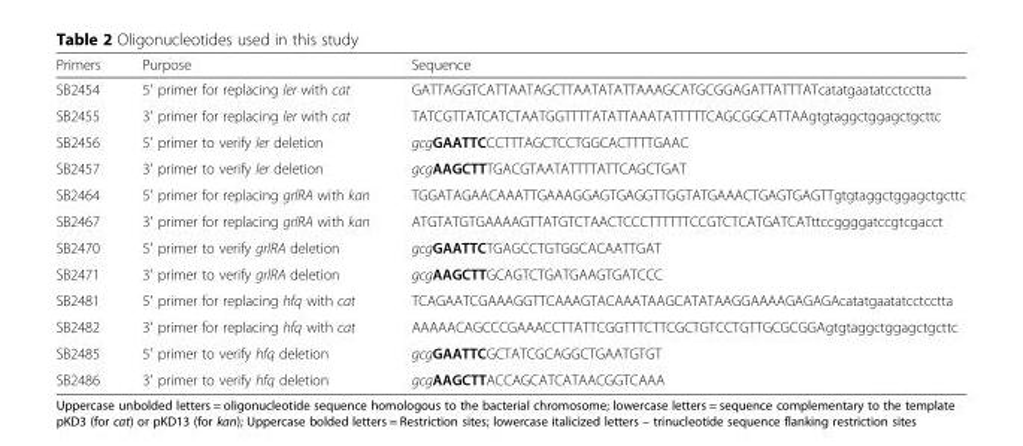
<table><thead><tr><td>Primers</td><td>Purpose</td><td>Sequence</td></tr></thead><tbody><tr><td>SB2454</td><td>5′ primer for replacing ler with cat</td><td>GATTAGGTCATTAATAGCTTAATATATTAAAGCATGCGGAGATTATTTATcatatgaatatcctcctta</td></tr><tr><td>SB2455</td><td>3′ primer for replacing ler with cat</td><td>TATCGTTATCATCTAATGGTTTTATATTAAATATTTTTCAGCGGCATTAAgtgtaggctggagctgcttc</td></tr><tr><td>SB2456</td><td>5′ primer to verify ler deletion</td><td>gcgGAATTCCCTTTAGCTCCTGGCACTTTTGAAC</td></tr><tr><td>SB2457</td><td>3′ primer to verify ler deletion</td><td>gcgAAGCTTTGACGTAATATTTTATTCAGCTGAT</td></tr><tr><td>SB2464</td><td>5′ primer for replacing grlRA with kan</td><td>TGGATAGAACAAATTGAAAGGAGTGAGGTTGGTATGAAACTGAGTGAGTTgtgtaggctggagctgcttc</td></tr><tr><td>SB2467</td><td>3′ primer for replacing grlRA with kan</td><td>ATGTATGTGAAAAGTTATGTCTAACTCCCTTTTTTCCGTCTCATGATCATttccggggatccgtcgacct</td></tr><tr><td>SB2470</td><td>5′ primer to verify grlRA deletion</td><td>gcgGAATTCTGAGCCTGTGGCACAATTGAT</td></tr><tr><td>SB2471</td><td>3′ primer to verify grlRA deletion</td><td>gcgAAGCTTGCAGTCTGATGAAGTGATCCC</td></tr><tr><td>SB2481</td><td>5′ primer for replacing hfq with cat</td><td>TCAGAATCGAAAGGTTCAAAGTACAAATAAGCATATAAGGAAAAGAGAGAcatatgaatatcctcctta</td></tr><tr><td>SB2482</td><td>3′ primer for replacing hfq with cat</td><td>AAAAACAGCCCGAAACCTTATTCGGTTTCTTCGCTGTCCTGTTGCGCGGAgtgtaggctggagctgcttc</td></tr><tr><td>SB2485</td><td>5′ primer to verify hfq deletion</td><td>gcgGAATTCGCTATCGCAGGCTGAATGTGT</td></tr><tr><td>SB2486</td><td>3′ primer to verify hfq deletion</td><td>gcgAAGCTTACCAGCATCATAACGGTCAAA</td></tr></tbody></table>